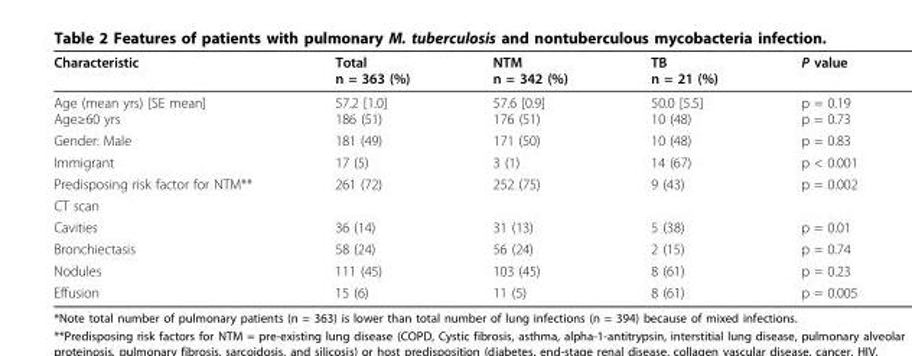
<table><thead><tr><td>Characteristic</td><td>Total n = 363 (%)</td><td>NTM n = 342 (%)</td><td>TB n = 21 (%)</td><td>P value</td></tr></thead><tbody><tr><td>Age (mean yrs) [SE mean] Age≥60 yrs</td><td>57.2 [1.0] 186 (51)</td><td>57.6 [0.9] 176 (51)</td><td>50.0 [5.5] 10 (48)</td><td>p = 0.19 p = 0.73</td></tr><tr><td>Gender: Male</td><td>181 (49)</td><td>171 (50)</td><td>10 (48)</td><td>p = 0.83</td></tr><tr><td>Immigrant</td><td>17 (5)</td><td>3 (1)</td><td>14 (67)</td><td>p &lt; 0.001</td></tr><tr><td>Predisposing risk factor for NTM**</td><td>261 (72)</td><td>252 (75)</td><td>9 (43)</td><td>p = 0.002</td></tr><tr><td colspan="5">CT scan</td></tr><tr><td>Cavities</td><td>36 (14)</td><td>31 (13)</td><td>5 (38)</td><td>p = 0.01</td></tr><tr><td>Bronchiectasis</td><td>58 (24)</td><td>56 (24)</td><td>2 (15)</td><td>p = 0.74</td></tr><tr><td>Nodules</td><td>111 (45)</td><td>103 (45)</td><td>8 (61)</td><td>p = 0.23</td></tr><tr><td>Effusion</td><td>15 (6)</td><td>11 (5)</td><td>8 (61)</td><td>p = 0.005</td></tr></tbody></table>